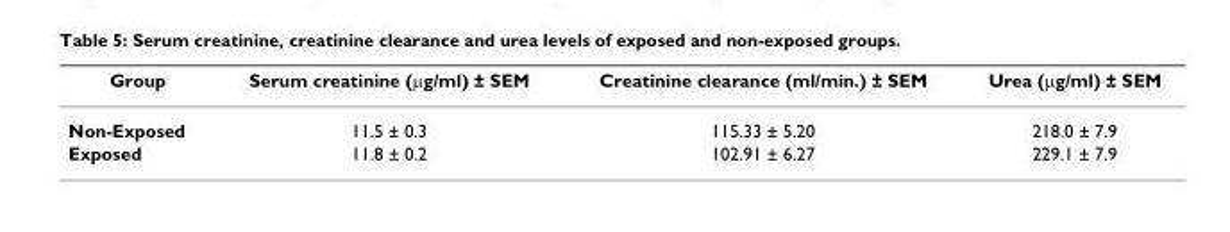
<table><thead><tr><td>Group</td><td>Serum creatinine (μg/ml) ± SEM</td><td>Creatinine clearance (ml/min.) ± SEM</td><td>Urea (μg/ml) ± SEM</td></tr></thead><tbody><tr><td>Non-Exposed</td><td>11.5 ± 0.3</td><td>115.33 ± 5.20</td><td>218.0 ± 7.9</td></tr><tr><td>Exposed</td><td>11.8 ± 0.2</td><td>102.91 ± 6.27</td><td>229.1 ± 7.9</td></tr></tbody></table>